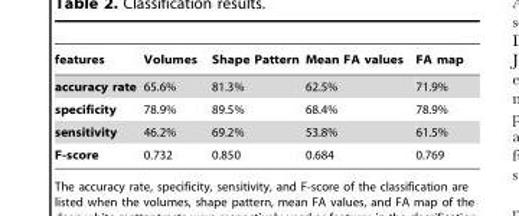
<table><thead><tr><td>features</td><td>Volumes</td><td>Shape Pattern</td><td>Mean FA values</td><td>FA map</td></tr></thead><tbody><tr><td>accuracy rate</td><td>65.6%</td><td>81.3%</td><td>62.5%</td><td>71.9%</td></tr><tr><td>specificity</td><td>78.9%</td><td>89.5%</td><td>68.4%</td><td>78.9%</td></tr><tr><td>sensitivity</td><td>46.2%</td><td>69.2%</td><td>53.8%</td><td>61.5%</td></tr><tr><td>F-score</td><td>0.732</td><td>0.850</td><td>0.684</td><td>0.769</td></tr></tbody></table>